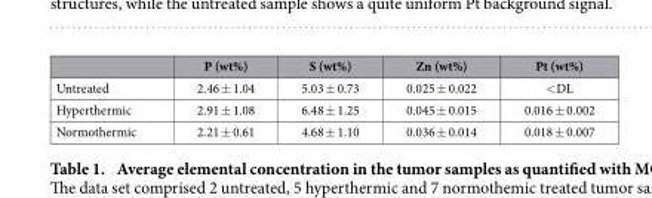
<table><thead><tr><td></td><td>P (wt%)</td><td>S (wt%)</td><td>Zn (wt%)</td><td>Pt (wt%)</td></tr></thead><tbody><tr><td>Untreated</td><td>2.46 ± 1.04</td><td>5.03 ± 0.73</td><td>0.025 ± 0.022</td><td>&lt; DL</td></tr><tr><td>Hyperthermic</td><td>2.91 ± 1.08</td><td>6.48 ± 1.25</td><td>0.045 ± 0.015</td><td>0.016 ± 0.002</td></tr><tr><td>Normothermic</td><td>2.21 ± 0.61</td><td>4.68 ± 1.10</td><td>0.036 ± 0.014</td><td>0.018 ± 0.007</td></tr></tbody></table>